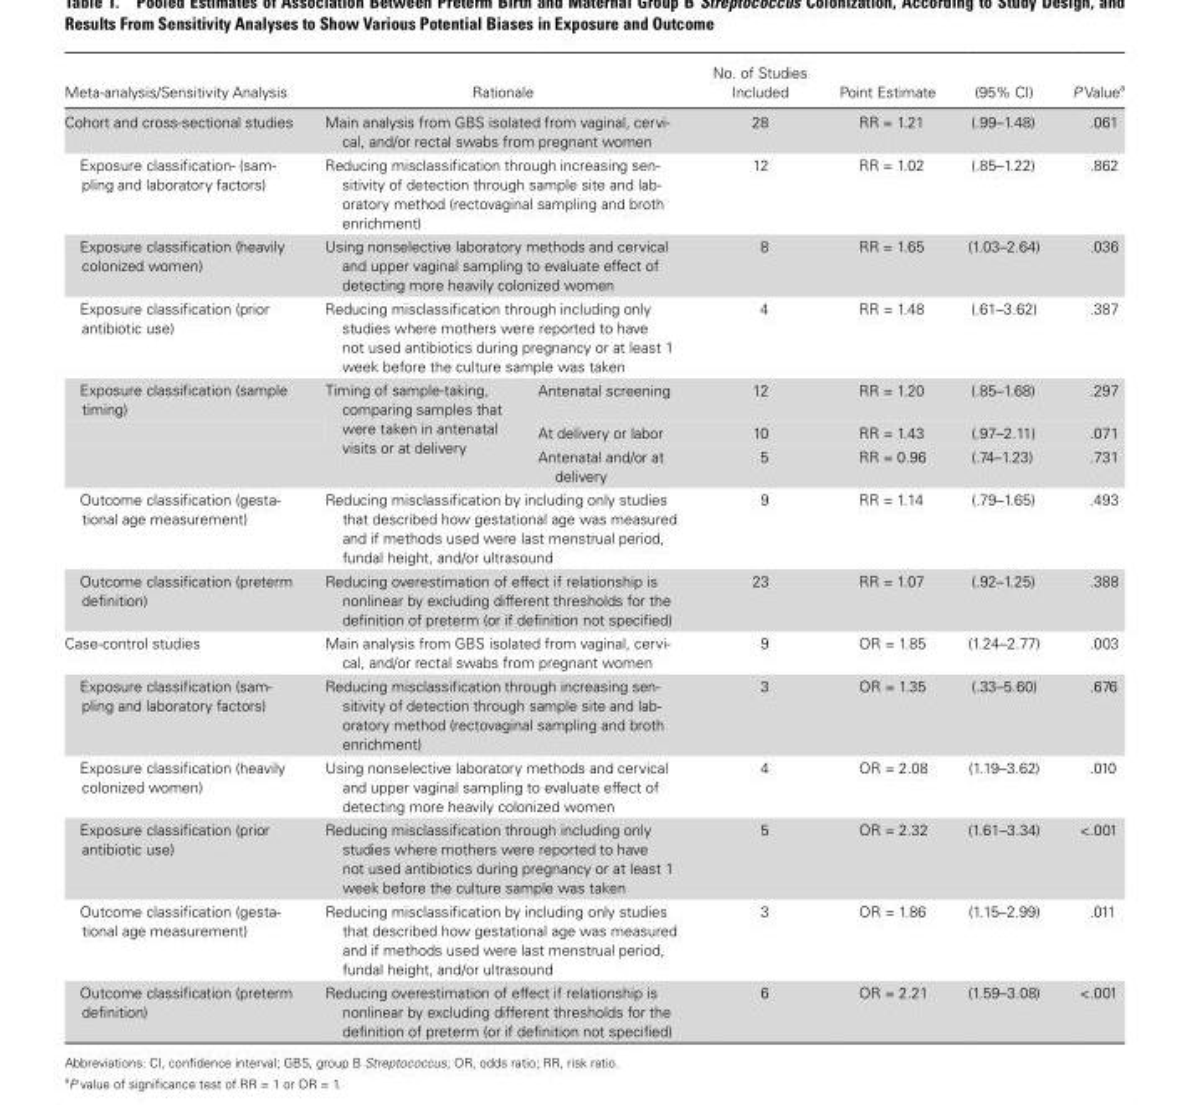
<table><thead><tr><td>Meta-analysis/Sensitivity Analysis</td><td colspan="2">Rationale</td><td>No. of Studies Included</td><td>Point Estimate</td><td>(95% CI)</td><td>P Value<sup>a</sup></td></tr></thead><tbody><tr><td>Cohort and cross-sectional studies</td><td colspan="2">Main analysis from GBS isolated from vaginal, cervi- cal, and/or rectal swabs from pregnant women</td><td>28</td><td>RR = 1.21</td><td>(.99–1.48)</td><td>.061</td></tr><tr><td>Exposure classification- (sam- pling and laboratory factors)</td><td colspan="2">Reducing misclassification through increasing sen- sitivity of detection through sample site and lab- oratory method (rectovaginal sampling and broth enrichment)</td><td>12</td><td>RR = 1.02</td><td>(.85–1.22)</td><td>.862</td></tr><tr><td>Exposure classification (heavily colonized women)</td><td colspan="2">Using nonselective laboratory methods and cervical and upper vaginal sampling to evaluate effect of detecting more heavily colonized women</td><td>8</td><td>RR = 1.65</td><td>(1.03–2.64)</td><td>.036</td></tr><tr><td>Exposure classification (prior antibiotic use)</td><td colspan="2">Reducing misclassification through including only studies where mothers were reported to have not used antibiotics during pregnancy or at least 1 week before the culture sample was taken</td><td>4</td><td>RR = 1.48</td><td>(.61–3.62)</td><td>.387</td></tr><tr><td rowspan="3">Exposure classification (sample timing)</td><td rowspan="3">Timing of sample-taking, comparing samples that were taken in antenatal visits or at delivery</td><td>Antenatal screening</td><td>12</td><td>RR = 1.20</td><td>(.85–1.68)</td><td>.297</td></tr><tr><td>At delivery or labor</td><td>10</td><td>RR = 1.43</td><td>(.97–2.11)</td><td>.071</td></tr><tr><td>Antenatal and/or at delivery</td><td>5</td><td>RR = 0.96</td><td>(.74–1.23)</td><td>.731</td></tr><tr><td>Outcome classification (gesta- tional age measurement)</td><td colspan="2">Reducing misclassification by including only studies that described how gestational age was measured and if methods used were last menstrual period, fundal height, and/or ultrasound</td><td>9</td><td>RR = 1.14</td><td>(.79–1.65)</td><td>.493</td></tr><tr><td>Outcome classification (preterm definition)</td><td colspan="2">Reducing overestimation of effect if relationship is nonlinear by excluding different thresholds for the definition of preterm (or if definition not specified)</td><td>23</td><td>RR = 1.07</td><td>(.92–1.25)</td><td>.388</td></tr><tr><td>Case-control studies</td><td colspan="2">Main analysis from GBS isolated from vaginal, cervi- cal, and/or rectal swabs from pregnant women</td><td>9</td><td>OR = 1.85</td><td>(1.24–2.77)</td><td>.003</td></tr><tr><td>Exposure classification (sam- pling and laboratory factors)</td><td colspan="2">Reducing misclassification through increasing sen- sitivity of detection through sample site and lab- oratory method (rectovaginal sampling and broth enrichment)</td><td>3</td><td>OR = 1.35</td><td>(.33–5.60)</td><td>.676</td></tr><tr><td>Exposure classification (heavily colonized women)</td><td colspan="2">Using nonselective laboratory methods and cervical and upper vaginal sampling to evaluate effect of detecting more heavily colonized women</td><td>4</td><td>OR = 2.08</td><td>(1.19–3.62)</td><td>.010</td></tr><tr><td>Exposure classification (prior antibiotic use)</td><td colspan="2">Reducing misclassification through including only studies where mothers were reported to have not used antibiotics during pregnancy or at least 1 week before the culture sample was taken</td><td>5</td><td>OR = 2.32</td><td>(1.61–3.34)</td><td>&lt;.001</td></tr><tr><td>Outcome classification (gesta- tional age measurement)</td><td colspan="2">Reducing misclassification by including only studies that described how gestational age was measured and if methods used were last menstrual period, fundal height, and/or ultrasound</td><td>3</td><td>OR = 1.86</td><td>(1.15–2.99)</td><td>.011</td></tr><tr><td>Outcome classification (preterm definition)</td><td colspan="2">Reducing overestimation of effect if relationship is nonlinear by excluding different thresholds for the definition of preterm (or if definition not specified)</td><td>6</td><td>OR = 2.21</td><td>(1.59–3.08)</td><td>&lt;.001</td></tr></tbody></table>